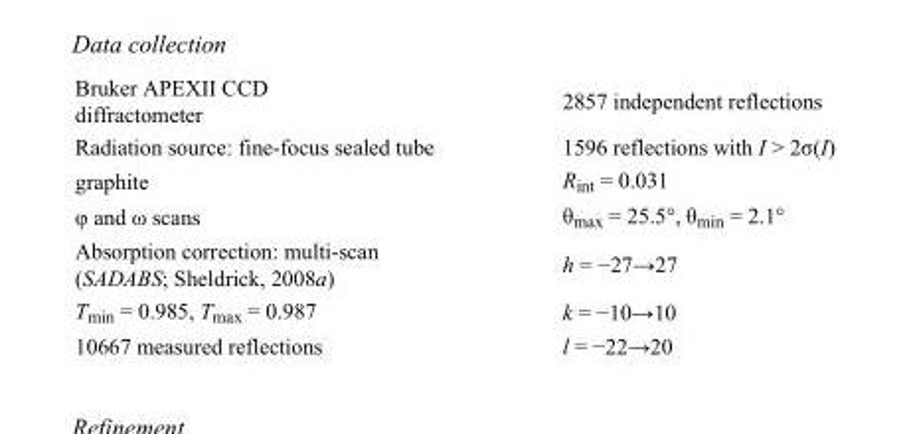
<table><tbody><tr><td>Bruker APEXII CCD diffractometer</td><td>2857 independent reflections</td></tr><tr><td>Radiation source: fine-focus sealed tube</td><td>1596 reflections with I &gt; 2σ(I)</td></tr><tr><td>graphite</td><td>R<sub>int</sub> = 0.031</td></tr><tr><td>φ and ω scans</td><td>θ<sub>max</sub> = 25.5°, θ<sub>min</sub> = 2.1°</td></tr><tr><td>Absorption correction: multi-scan (SADABS; Sheldrick, 2008a)</td><td>h = −27→27</td></tr><tr><td>T<sub>min</sub> = 0.985, T<sub>max</sub> = 0.987</td><td>k = −10→10</td></tr><tr><td>10667 measured reflections</td><td>l = −22→20</td></tr></tbody></table>